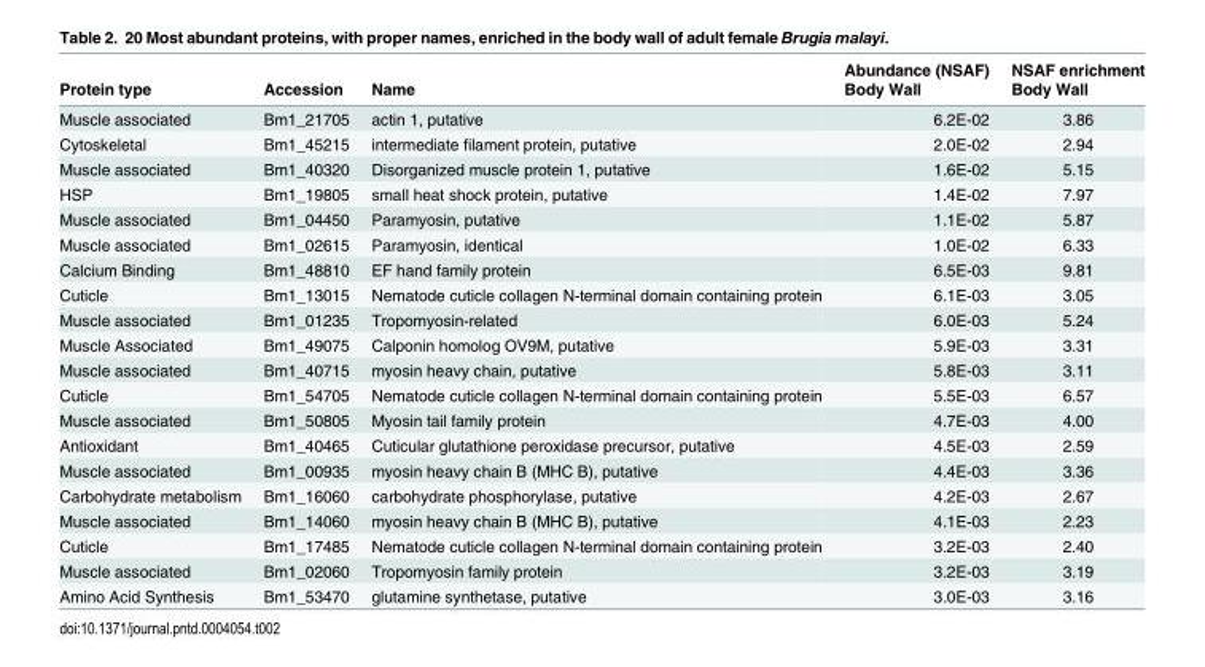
<table><thead><tr><td rowspan="2">Protein type</td><td rowspan="2">Accession</td><td rowspan="2">Name</td><td rowspan="2">Abundance (NSAF) Body Wall</td><td rowspan="2">NSAF enrichment Body Wall</td></tr><tr></tr></thead><tbody><tr><td>Muscle associated</td><td>Bm1_21705</td><td>actin 1, putative</td><td>6.2E-02</td><td>3.86</td></tr><tr><td>Cytoskeletal</td><td>Bm1_45215</td><td>intermediate filament protein, putative</td><td>2.0E-02</td><td>2.94</td></tr><tr><td>Muscle associated</td><td>Bm1_40320</td><td>Disorganized muscle protein 1, putative</td><td>1.6E-02</td><td>5.15</td></tr><tr><td>HSP</td><td>Bm1_19805</td><td>small heat shock protein, putative</td><td>1.4E-02</td><td>7.97</td></tr><tr><td>Muscle associated</td><td>Bm1_04450</td><td>Paramyosin, putative</td><td>1.1E-02</td><td>5.87</td></tr><tr><td>Muscle associated</td><td>Bm1_02615</td><td>Paramyosin, identical</td><td>1.0E-02</td><td>6.33</td></tr><tr><td>Calcium Binding</td><td>Bm1_48810</td><td>EF hand family protein</td><td>6.5E-03</td><td>9.81</td></tr><tr><td>Cuticle</td><td>Bm1_13015</td><td>Nematode cuticle collagen N-terminal domain containing protein</td><td>6.1E-03</td><td>3.05</td></tr><tr><td>Muscle associated</td><td>Bm1_01235</td><td>Tropomyosin-related</td><td>6.0E-03</td><td>5.24</td></tr><tr><td>Muscle Associated</td><td>Bm1_49075</td><td>Calponin homolog OV9M, putative</td><td>5.9E-03</td><td>3.31</td></tr><tr><td>Muscle associated</td><td>Bm1_40715</td><td>myosin heavy chain, putative</td><td>5.8E-03</td><td>3.11</td></tr><tr><td>Cuticle</td><td>Bm1_54705</td><td>Nematode cuticle collagen N-terminal domain containing protein</td><td>5.5E-03</td><td>6.57</td></tr><tr><td>Muscle associated</td><td>Bm1_50805</td><td>Myosin tail family protein</td><td>4.7E-03</td><td>4.00</td></tr><tr><td>Antioxidant</td><td>Bm1_40465</td><td>Cuticular glutathione peroxidase precursor, putative</td><td>4.5E-03</td><td>2.59</td></tr><tr><td>Muscle associated</td><td>Bm1_00935</td><td>myosin heavy chain B (MHC B), putative</td><td>4.4E-03</td><td>3.36</td></tr><tr><td>Carbohydrate metabolism</td><td>Bm1_16060</td><td>carbohydrate phosphorylase, putative</td><td>4.2E-03</td><td>2.67</td></tr><tr><td>Muscle associated</td><td>Bm1_14060</td><td>myosin heavy chain B (MHC B), putative</td><td>4.1E-03</td><td>2.23</td></tr><tr><td>Cuticle</td><td>Bm1_17485</td><td>Nematode cuticle collagen N-terminal domain containing protein</td><td>3.2E-03</td><td>2.40</td></tr><tr><td>Muscle associated</td><td>Bm1_02060</td><td>Tropomyosin family protein</td><td>3.2E-03</td><td>3.19</td></tr><tr><td>Amino Acid Synthesis</td><td>Bm1_53470</td><td>glutamine synthetase, putative</td><td>3.0E-03</td><td>3.16</td></tr></tbody></table>